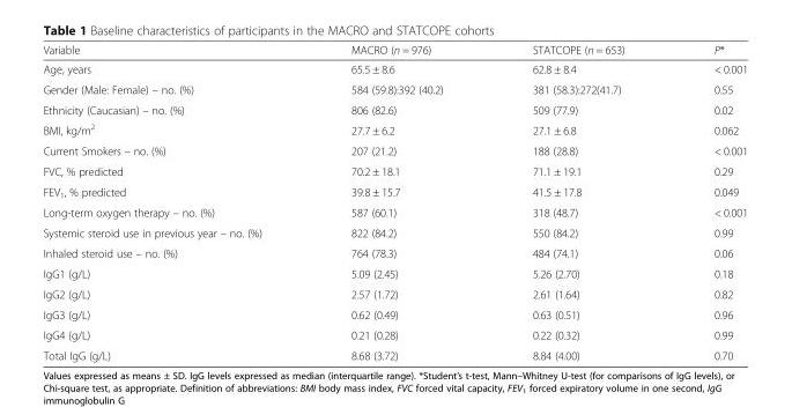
<table><thead><tr><td>Variable</td><td>MACRO (n = 976)</td><td>STATCOPE (n = 653)</td><td>P*</td></tr></thead><tbody><tr><td>Age, years</td><td>65.5 ± 8.6</td><td>62.8 ± 8.4</td><td>&lt; 0.001</td></tr><tr><td>Gender (Male: Female) – no. (%)</td><td>584 (59.8):392 (40.2)</td><td>381 (58.3):272(41.7)</td><td>0.55</td></tr><tr><td>Ethnicity (Caucasian) – no. (%)</td><td>806 (82.6)</td><td>509 (77.9)</td><td>0.02</td></tr><tr><td>BMI, kg/m<sup>2</sup></td><td>27.7 ± 6.2</td><td>27.1 ± 6.8</td><td>0.062</td></tr><tr><td>Current Smokers – no. (%)</td><td>207 (21.2)</td><td>188 (28.8)</td><td>&lt; 0.001</td></tr><tr><td>FVC, % predicted</td><td>70.2 ± 18.1</td><td>71.1 ± 19.1</td><td>0.29</td></tr><tr><td>FEV<sub>1</sub>, % predicted</td><td>39.8 ± 15.7</td><td>41.5 ± 17.8</td><td>0.049</td></tr><tr><td>Long-term oxygen therapy – no. (%)</td><td>587 (60.1)</td><td>318 (48.7)</td><td>&lt; 0.001</td></tr><tr><td>Systemic steroid use in previous year – no. (%)</td><td>822 (84.2)</td><td>550 (84.2)</td><td>0.99</td></tr><tr><td>Inhaled steroid use – no. (%)</td><td>764 (78.3)</td><td>484 (74.1)</td><td>0.06</td></tr><tr><td>IgG1 (g/L)</td><td>5.09 (2.45)</td><td>5.26 (2.70)</td><td>0.18</td></tr><tr><td>IgG2 (g/L)</td><td>2.57 (1.72)</td><td>2.61 (1.64)</td><td>0.82</td></tr><tr><td>IgG3 (g/L)</td><td>0.62 (0.49)</td><td>0.63 (0.51)</td><td>0.96</td></tr><tr><td>IgG4 (g/L)</td><td>0.21 (0.28)</td><td>0.22 (0.32)</td><td>0.99</td></tr><tr><td>Total IgG (g/L)</td><td>8.68 (3.72)</td><td>8.84 (4.00)</td><td>0.70</td></tr></tbody></table>